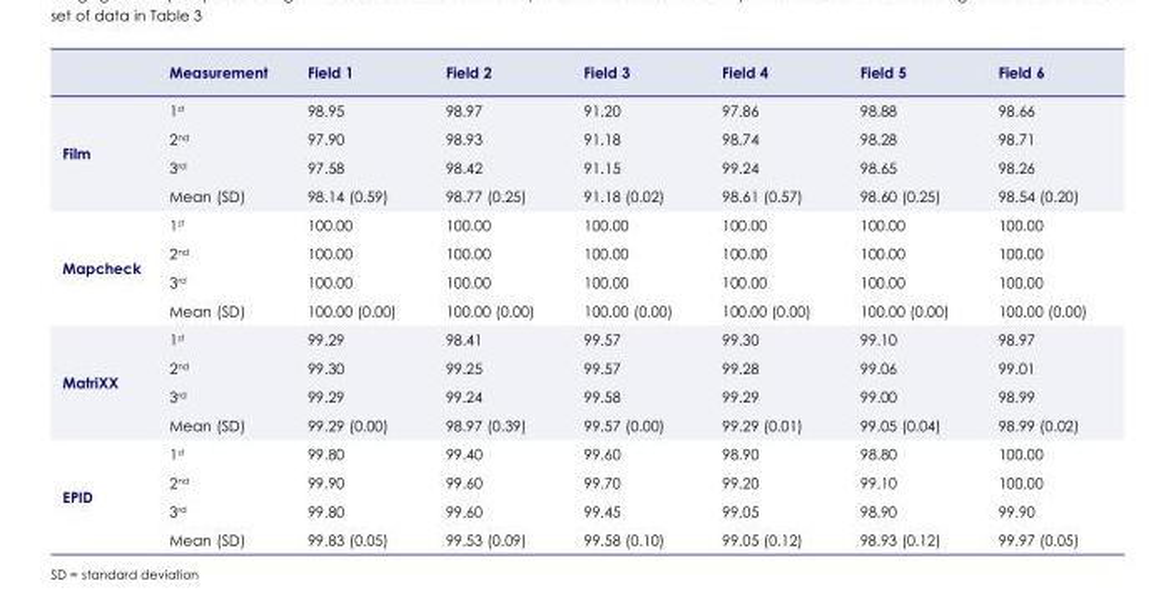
<table><thead><tr><td></td><td>Measurement</td><td>Field 1</td><td>Field 2</td><td>Field 3</td><td>Field 4</td><td>Field 5</td><td>Field 6</td></tr></thead><tbody><tr><td rowspan="4">Film</td><td>1<sup>st</sup></td><td>98.95</td><td>98.97</td><td>91.20</td><td>97.86</td><td>98.88</td><td>98.66</td></tr><tr><td>2<sup>nd</sup></td><td>97.90</td><td>98.93</td><td>91.18</td><td>98.74</td><td>98.28</td><td>98.71</td></tr><tr><td>3<sup>rd</sup></td><td>97.58</td><td>98.42</td><td>91.15</td><td>99.24</td><td>98.65</td><td>98.26</td></tr><tr><td>Mean (SD)</td><td>98.14 (0.59)</td><td>98.77 (0.25)</td><td>91.18 (0.02)</td><td>98.61 (0.57)</td><td>98.60 (0.25)</td><td>98.54 (0.20)</td></tr><tr><td rowspan="4">Mapcheck</td><td>1<sup>st</sup></td><td>100.00</td><td>100.00</td><td>100.00</td><td>100.00</td><td>100.00</td><td>100.00</td></tr><tr><td>2<sup>nd</sup></td><td>100.00</td><td>100.00</td><td>100.00</td><td>100.00</td><td>100.00</td><td>100.00</td></tr><tr><td>3<sup>rd</sup></td><td>100.00</td><td>100.00</td><td>100.00</td><td>100.00</td><td>100.00</td><td>100.00</td></tr><tr><td>Mean (SD)</td><td>100.00 (0.00)</td><td>100.00 (0.00)</td><td>100.00 (0.00)</td><td>100.00 (0.00)</td><td>100.00 (0.00)</td><td>100.00 (0.00)</td></tr><tr><td rowspan="4">MatriXX</td><td>1<sup>st</sup></td><td>99.29</td><td>98.41</td><td>99.57</td><td>99.30</td><td>99.10</td><td>98.97</td></tr><tr><td>2<sup>nd</sup></td><td>99.30</td><td>99.25</td><td>99.57</td><td>99.28</td><td>99.06</td><td>99.01</td></tr><tr><td>3<sup>rd</sup></td><td>99.29</td><td>99.24</td><td>99.58</td><td>99.29</td><td>99.00</td><td>98.99</td></tr><tr><td>Mean (SD)</td><td>99.29 (0.00)</td><td>98.97 (0.39)</td><td>99.57 (0.00)</td><td>99.29 (0.01)</td><td>99.05 (0.04)</td><td>98.99 (0.02)</td></tr><tr><td rowspan="4">EPID</td><td>1<sup>st</sup></td><td>99.80</td><td>99.40</td><td>99.60</td><td>98.90</td><td>98.80</td><td>100.00</td></tr><tr><td>2<sup>nd</sup></td><td>99.90</td><td>99.60</td><td>99.70</td><td>99.20</td><td>99.10</td><td>100.00</td></tr><tr><td>3<sup>rd</sup></td><td>99.80</td><td>99.60</td><td>99.45</td><td>99.05</td><td>98.90</td><td>99.90</td></tr><tr><td>Mean (SD)</td><td>99.83 (0.05)</td><td>99.53 (0.09)</td><td>99.58 (0.10)</td><td>99.05 (0.12)</td><td>98.93 (0.12)</td><td>99.97 (0.05)</td></tr></tbody></table>